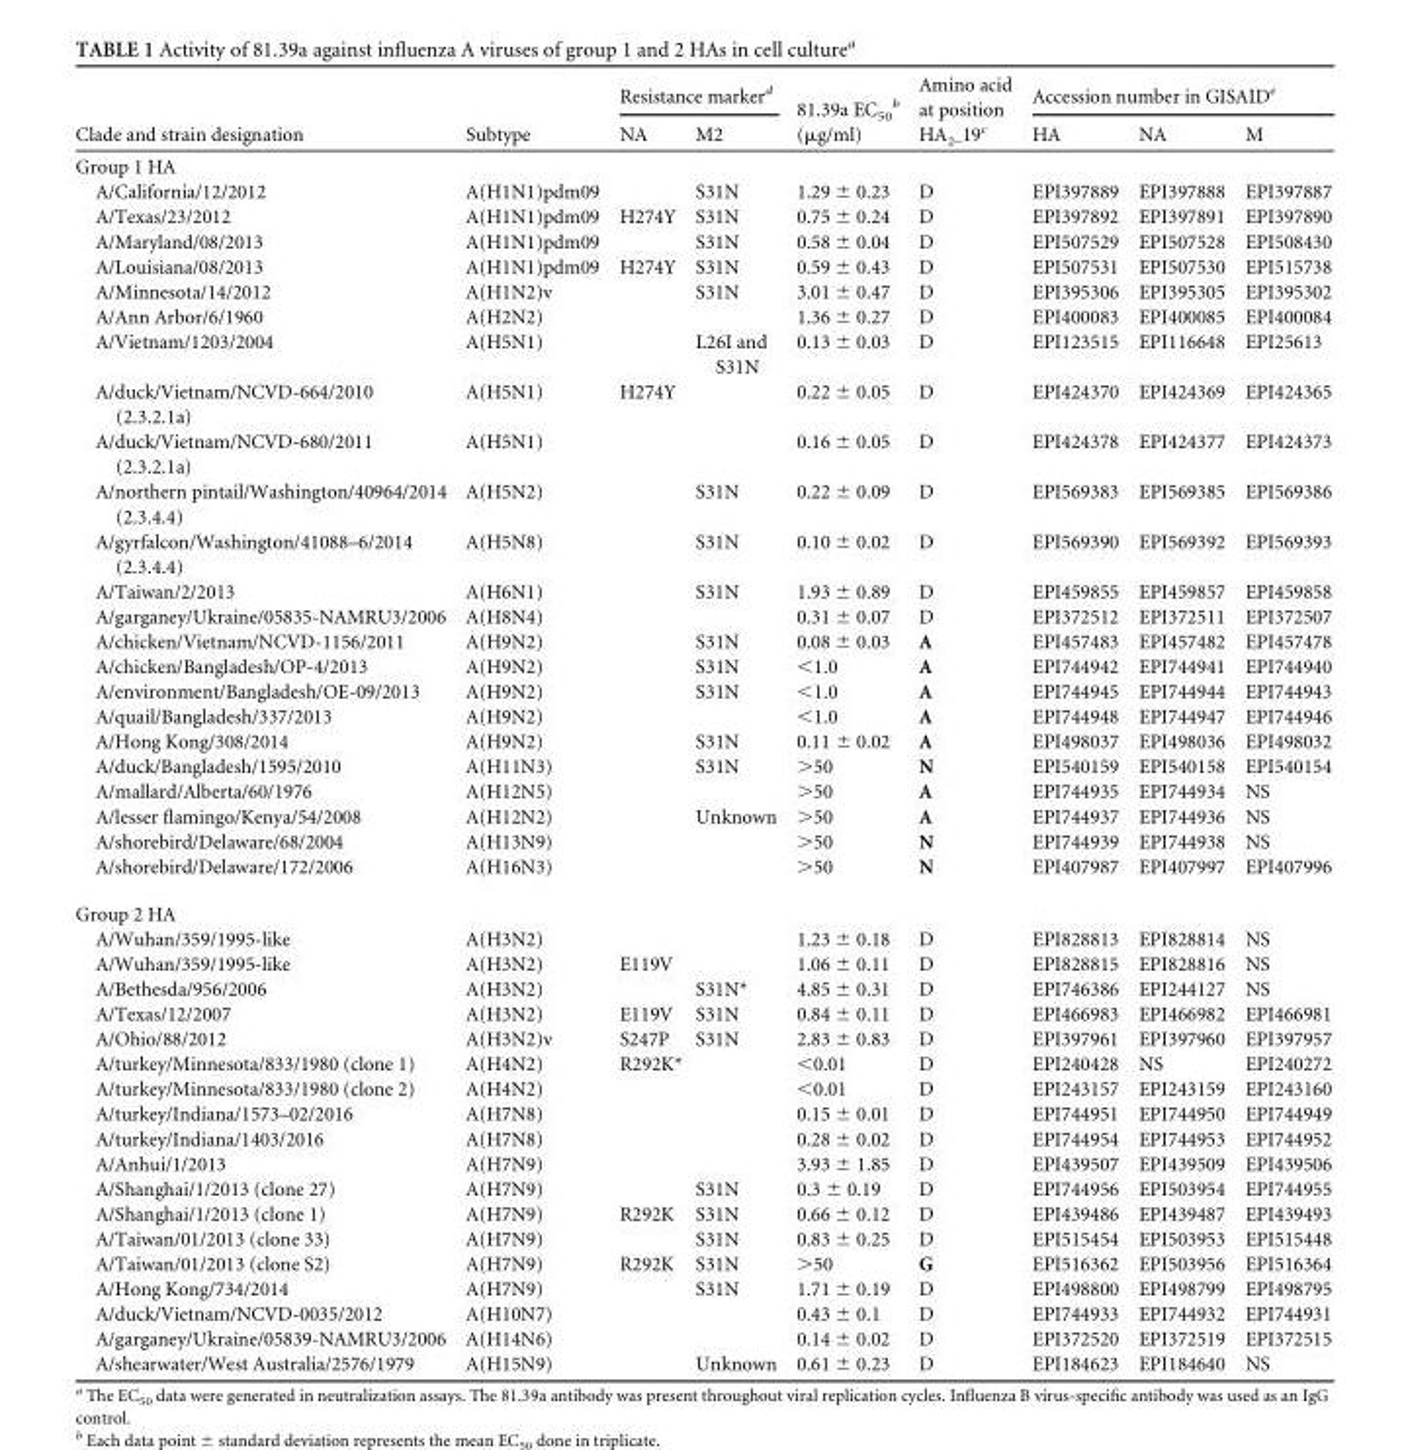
<table><thead><tr><td rowspan="2">Clade and strain designation</td><td rowspan="2">Subtype</td><td colspan="2">Resistance marker<sup>d</sup></td><td rowspan="2">81.39a EC<sub>50</sub> <sup>b</sup> (μg/ml)</td><td rowspan="2">Amino acid at position HA<sub>2–</sub>19<sup>c</sup></td><td colspan="3">Accession number in GISAID<sup>e</sup></td></tr><tr><td>NA</td><td>M2</td><td>HA</td><td>NA</td><td>M</td></tr></thead><tbody><tr><td colspan="9">Group 1 HA</td></tr><tr><td>A/California/12/2012</td><td>A(H1N1)pdm09</td><td></td><td>S31N</td><td>1.29 ± 0.23</td><td>D</td><td>EPI397889</td><td>EPI397888</td><td>EPI397887</td></tr><tr><td>A/Texas/23/2012</td><td>A(H1N1)pdm09</td><td>H274Y</td><td>S31N</td><td>0.75 ± 0.24</td><td>D</td><td>EPI397892</td><td>EPI397891</td><td>EPI397890</td></tr><tr><td>A/Maryland/08/2013</td><td>A(H1N1)pdm09</td><td></td><td>S31N</td><td>0.58 ± 0.04</td><td>D</td><td>EPI507529</td><td>EPI507528</td><td>EPI508430</td></tr><tr><td>A/Louisiana/08/2013</td><td>A(H1N1)pdm09</td><td>H274Y</td><td>S31N</td><td>0.59 ± 0.43</td><td>D</td><td>EPI507531</td><td>EPI507530</td><td>EPI515738</td></tr><tr><td>A/Minnesota/14/2012</td><td>A(H1N2)v</td><td></td><td>S31N</td><td>3.01 ± 0.47</td><td>D</td><td>EPI395306</td><td>EPI395305</td><td>EPI395302</td></tr><tr><td>A/Ann Arbor/6/1960</td><td>A(H2N2)</td><td></td><td></td><td>1.36 ± 0.27</td><td>D</td><td>EPI400083</td><td>EPI400085</td><td>EPI400084</td></tr><tr><td>A/Vietnam/1203/2004</td><td>A(H5N1)</td><td></td><td>L26I and S31N</td><td>0.13 ± 0.03</td><td>D</td><td>EPI123515</td><td>EPI116648</td><td>EPI25613</td></tr><tr><td>A/duck/Vietnam/NCVD-664/2010 (2.3.2.1a)</td><td>A(H5N1)</td><td>H274Y</td><td></td><td>0.22 ± 0.05</td><td>D</td><td>EPI424370</td><td>EPI424369</td><td>EPI424365</td></tr><tr><td>A/duck/Vietnam/NCVD-680/2011 (2.3.2.1a)</td><td>A(H5N1)</td><td></td><td></td><td>0.16 ± 0.05</td><td>D</td><td>EPI424378</td><td>EPI424377</td><td>EPI424373</td></tr><tr><td>A/northern pintail/Washington/40964/2014 (2.3.4.4)</td><td>A(H5N2)</td><td></td><td>S31N</td><td>0.22 ± 0.09</td><td>D</td><td>EPI569383</td><td>EPI569385</td><td>EPI569386</td></tr><tr><td>A/gyrfalcon/Washington/41088–6/2014 (2.3.4.4)</td><td>A(H5N8)</td><td></td><td>S31N</td><td>0.10 ± 0.02</td><td>D</td><td>EPI569390</td><td>EPI569392</td><td>EPI569393</td></tr><tr><td>A/Taiwan/2/2013</td><td>A(H6N1)</td><td></td><td>S31N</td><td>1.93 ± 0.89</td><td>D</td><td>EPI459855</td><td>EPI459857</td><td>EPI459858</td></tr><tr><td>A/garganey/Ukraine/05835-NAMRU3/2006</td><td>A(H8N4)</td><td></td><td></td><td>0.31 ± 0.07</td><td>D</td><td>EPI372512</td><td>EPI372511</td><td>EPI372507</td></tr><tr><td>A/chicken/Vietnam/NCVD-1156/2011</td><td>A(H9N2)</td><td></td><td>S31N</td><td>0.08 ± 0.03</td><td>A</td><td>EPI457483</td><td>EPI457482</td><td>EPI457478</td></tr><tr><td>A/chicken/Bangladesh/OP-4/2013</td><td>A(H9N2)</td><td></td><td>S31N</td><td>&lt;1.0</td><td>A</td><td>EPI744942</td><td>EPI744941</td><td>EPI744940</td></tr><tr><td>A/environment/Bangladesh/OE-09/2013</td><td>A(H9N2)</td><td></td><td>S31N</td><td>&lt;1.0</td><td>A</td><td>EPI744945</td><td>EPI744944</td><td>EPI744943</td></tr><tr><td>A/quail/Bangladesh/337/2013</td><td>A(H9N2)</td><td></td><td></td><td>&lt;1.0</td><td>A</td><td>EPI744948</td><td>EPI744947</td><td>EPI744946</td></tr><tr><td>A/Hong Kong/308/2014</td><td>A(H9N2)</td><td></td><td>S31N</td><td>0.11 ± 0.02</td><td>A</td><td>EPI498037</td><td>EPI498036</td><td>EPI498032</td></tr><tr><td>A/duck/Bangladesh/1595/2010</td><td>A(H11N3)</td><td></td><td>S31N</td><td>&gt;50</td><td>N</td><td>EPI540159</td><td>EPI540158</td><td>EPI540154</td></tr><tr><td>A/mallard/Alberta/60/1976</td><td>A(H12N5)</td><td></td><td></td><td>&gt;50</td><td>A</td><td>EPI744935</td><td>EPI744934</td><td>NS</td></tr><tr><td>A/lesser flamingo/Kenya/54/2008</td><td>A(H12N2)</td><td></td><td>Unknown</td><td>&gt;50</td><td>A</td><td>EPI744937</td><td>EPI744936</td><td>NS</td></tr><tr><td>A/shorebird/Delaware/68/2004</td><td>A(H13N9)</td><td></td><td></td><td>&gt;50</td><td>N</td><td>EPI744939</td><td>EPI744938</td><td>NS</td></tr><tr><td>A/shorebird/Delaware/172/2006</td><td>A(H16N3)</td><td></td><td></td><td>&gt;50</td><td>N</td><td>EPI407987</td><td>EPI407997</td><td>EPI407996</td></tr><tr><td colspan="9">Group 2 HA</td></tr><tr><td>A/Wuhan/359/1995-like</td><td>A(H3N2)</td><td></td><td></td><td>1.23 ± 0.18</td><td>D</td><td>EPI828813</td><td>EPI828814</td><td>NS</td></tr><tr><td>A/Wuhan/359/1995-like</td><td>A(H3N2)</td><td>E119V</td><td></td><td>1.06 ± 0.11</td><td>D</td><td>EPI828815</td><td>EPI828816</td><td>NS</td></tr><tr><td>A/Bethesda/956/2006</td><td>A(H3N2)</td><td></td><td>S31N*</td><td>4.85 ± 0.31</td><td>D</td><td>EPI746386</td><td>EPI244127</td><td>NS</td></tr><tr><td>A/Texas/12/2007</td><td>A(H3N2)</td><td>E119V</td><td>S31N</td><td>0.84 ± 0.11</td><td>D</td><td>EPI466983</td><td>EPI466982</td><td>EPI466981</td></tr><tr><td>A/Ohio/88/2012</td><td>A(H3N2)v</td><td>S247P</td><td>S31N</td><td>2.83 ± 0.83</td><td>D</td><td>EPI397961</td><td>EPI397960</td><td>EPI397957</td></tr><tr><td>A/turkey/Minnesota/833/1980 (clone 1)</td><td>A(H4N2)</td><td>R292K*</td><td></td><td>&lt;0.01</td><td>D</td><td>EPI240428</td><td>NS</td><td>EPI240272</td></tr><tr><td>A/turkey/Minnesota/833/1980 (clone 2)</td><td>A(H4N2)</td><td></td><td></td><td>&lt;0.01</td><td>D</td><td>EPI243157</td><td>EPI243159</td><td>EPI243160</td></tr><tr><td>A/turkey/Indiana/1573–02/2016</td><td>A(H7N8)</td><td></td><td></td><td>0.15 ± 0.01</td><td>D</td><td>EPI744951</td><td>EPI744950</td><td>EPI744949</td></tr><tr><td>A/turkey/Indiana/1403/2016</td><td>A(H7N8)</td><td></td><td></td><td>0.28 ± 0.02</td><td>D</td><td>EPI744954</td><td>EPI744953</td><td>EPI744952</td></tr><tr><td>A/Anhui/1/2013</td><td>A(H7N9)</td><td></td><td></td><td>3.93 ± 1.85</td><td>D</td><td>EPI439507</td><td>EPI439509</td><td>EPI439506</td></tr><tr><td>A/Shanghai/1/2013 (clone 27)</td><td>A(H7N9)</td><td></td><td>S31N</td><td>0.3 ± 0.19</td><td>D</td><td>EPI744956</td><td>EPI503954</td><td>EPI744955</td></tr><tr><td>A/Shanghai/1/2013 (clone 1)</td><td>A(H7N9)</td><td>R292K</td><td>S31N</td><td>0.66 ± 0.12</td><td>D</td><td>EPI439486</td><td>EPI439487</td><td>EPI439493</td></tr><tr><td>A/Taiwan/01/2013 (clone 33)</td><td>A(H7N9)</td><td></td><td>S31N</td><td>0.83 ± 0.25</td><td>D</td><td>EPI515454</td><td>EPI503953</td><td>EPI515448</td></tr><tr><td>A/Taiwan/01/2013 (clone S2)</td><td>A(H7N9)</td><td>R292K</td><td>S31N</td><td>&gt;50</td><td>G</td><td>EPI516362</td><td>EPI503956</td><td>EPI516364</td></tr><tr><td>A/Hong Kong/734/2014</td><td>A(H7N9)</td><td></td><td>S31N</td><td>1.71 ± 0.19</td><td>D</td><td>EPI498800</td><td>EPI498799</td><td>EPI498795</td></tr><tr><td>A/duck/Vietnam/NCVD-0035/2012</td><td>A(H10N7)</td><td></td><td></td><td>0.43 ± 0.1</td><td>D</td><td>EPI744933</td><td>EPI744932</td><td>EPI744931</td></tr><tr><td>A/garganey/Ukraine/05839-NAMRU3/2006</td><td>A(H14N6)</td><td></td><td></td><td>0.14 ± 0.02</td><td>D</td><td>EPI372520</td><td>EPI372519</td><td>EPI372515</td></tr><tr><td>A/shearwater/West Australia/2576/1979</td><td>A(H15N9)</td><td></td><td>Unknown</td><td>0.61 ± 0.23</td><td>D</td><td>EPI184623</td><td>EPI184640</td><td>NS</td></tr></tbody></table>